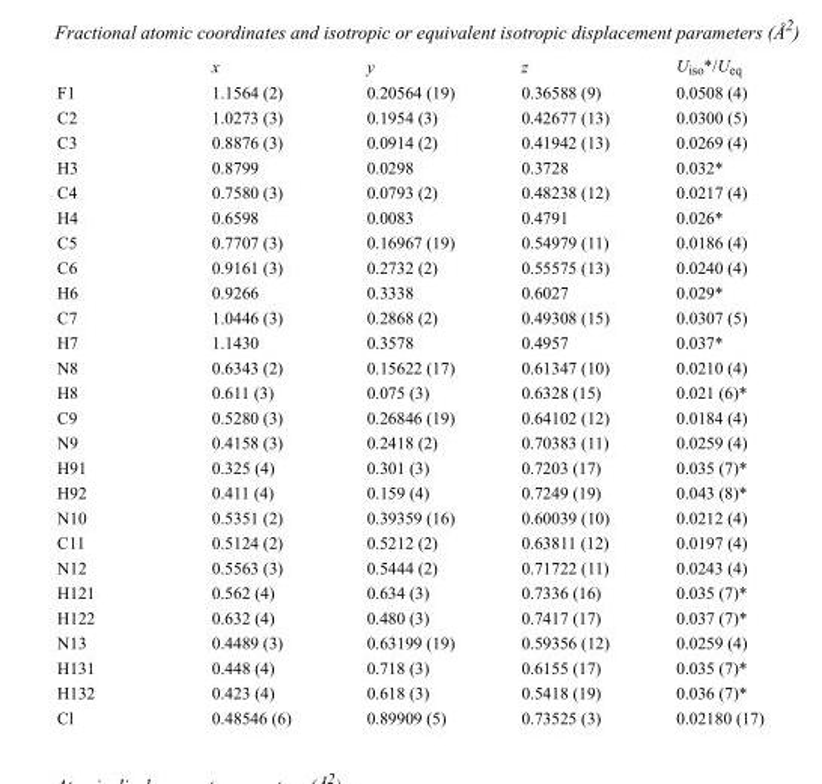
<table><thead><tr><td></td><td>x</td><td>y</td><td>z</td><td>U<sub>iso</sub>*/U<sub>eq</sub></td></tr></thead><tbody><tr><td>F1</td><td>1.1564 (2)</td><td>0.20564 (19)</td><td>0.36588 (9)</td><td>0.0508 (4)</td></tr><tr><td>C2</td><td>1.0273 (3)</td><td>0.1954 (3)</td><td>0.42677 (13)</td><td>0.0300 (5)</td></tr><tr><td>C3</td><td>0.8876 (3)</td><td>0.0914 (2)</td><td>0.41942 (13)</td><td>0.0269 (4)</td></tr><tr><td>H3</td><td>0.8799</td><td>0.0298</td><td>0.3728</td><td>0.032*</td></tr><tr><td>C4</td><td>0.7580 (3)</td><td>0.0793 (2)</td><td>0.48238 (12)</td><td>0.0217 (4)</td></tr><tr><td>H4</td><td>0.6598</td><td>0.0083</td><td>0.4791</td><td>0.026*</td></tr><tr><td>C5</td><td>0.7707 (3)</td><td>0.16967 (19)</td><td>0.54979 (11)</td><td>0.0186 (4)</td></tr><tr><td>C6</td><td>0.9161 (3)</td><td>0.2732 (2)</td><td>0.55575 (13)</td><td>0.0240 (4)</td></tr><tr><td>H6</td><td>0.9266</td><td>0.3338</td><td>0.6027</td><td>0.029*</td></tr><tr><td>C7</td><td>1.0446 (3)</td><td>0.2868 (2)</td><td>0.49308 (15)</td><td>0.0307 (5)</td></tr><tr><td>H7</td><td>1.1430</td><td>0.3578</td><td>0.4957</td><td>0.037*</td></tr><tr><td>N8</td><td>0.6343 (2)</td><td>0.15622 (17)</td><td>0.61347 (10)</td><td>0.0210 (4)</td></tr><tr><td>H8</td><td>0.611 (3)</td><td>0.075 (3)</td><td>0.6328 (15)</td><td>0.021 (6)*</td></tr><tr><td>C9</td><td>0.5280 (3)</td><td>0.26846 (19)</td><td>0.64102 (12)</td><td>0.0184 (4)</td></tr><tr><td>N9</td><td>0.4158 (3)</td><td>0.2418 (2)</td><td>0.70383 (11)</td><td>0.0259 (4)</td></tr><tr><td>H91</td><td>0.325 (4)</td><td>0.301 (3)</td><td>0.7203 (17)</td><td>0.035 (7)*</td></tr><tr><td>H92</td><td>0.411 (4)</td><td>0.159 (4)</td><td>0.7249 (19)</td><td>0.043 (8)*</td></tr><tr><td>N10</td><td>0.5351 (2)</td><td>0.39359 (16)</td><td>0.60039 (10)</td><td>0.0212 (4)</td></tr><tr><td>C11</td><td>0.5124 (2)</td><td>0.5212 (2)</td><td>0.63811 (12)</td><td>0.0197 (4)</td></tr><tr><td>N12</td><td>0.5563 (3)</td><td>0.5444 (2)</td><td>0.71722 (11)</td><td>0.0243 (4)</td></tr><tr><td>H121</td><td>0.562 (4)</td><td>0.634 (3)</td><td>0.7336 (16)</td><td>0.035 (7)*</td></tr><tr><td>H122</td><td>0.632 (4)</td><td>0.480 (3)</td><td>0.7417 (17)</td><td>0.037 (7)*</td></tr><tr><td>N13</td><td>0.4489 (3)</td><td>0.63199 (19)</td><td>0.59356 (12)</td><td>0.0259 (4)</td></tr><tr><td>H131</td><td>0.448 (4)</td><td>0.718 (3)</td><td>0.6155 (17)</td><td>0.035 (7)*</td></tr><tr><td>H132</td><td>0.423 (4)</td><td>0.618 (3)</td><td>0.5418 (19)</td><td>0.036 (7)*</td></tr><tr><td>Cl</td><td>0.48546 (6)</td><td>0.89909 (5)</td><td>0.73525 (3)</td><td>0.02180 (17)</td></tr></tbody></table>